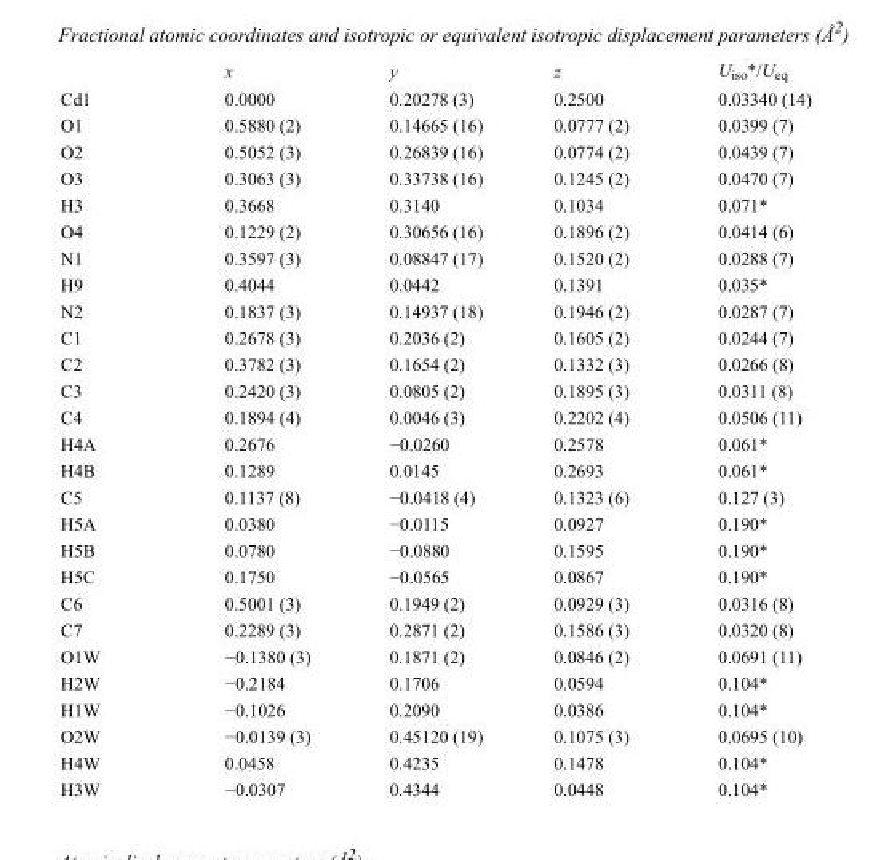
<table><thead><tr><td></td><td>x</td><td>y</td><td>z</td><td>U<sub>iso</sub>*/U<sub>eq</sub></td></tr></thead><tbody><tr><td>Cd1</td><td>0.0000</td><td>0.20278 (3)</td><td>0.2500</td><td>0.03340 (14)</td></tr><tr><td>O1</td><td>0.5880 (2)</td><td>0.14665 (16)</td><td>0.0777 (2)</td><td>0.0399 (7)</td></tr><tr><td>O2</td><td>0.5052 (3)</td><td>0.26839 (16)</td><td>0.0774 (2)</td><td>0.0439 (7)</td></tr><tr><td>O3</td><td>0.3063 (3)</td><td>0.33738 (16)</td><td>0.1245 (2)</td><td>0.0470 (7)</td></tr><tr><td>H3</td><td>0.3668</td><td>0.3140</td><td>0.1034</td><td>0.071*</td></tr><tr><td>O4</td><td>0.1229 (2)</td><td>0.30656 (16)</td><td>0.1896 (2)</td><td>0.0414 (6)</td></tr><tr><td>N1</td><td>0.3597 (3)</td><td>0.08847 (17)</td><td>0.1520 (2)</td><td>0.0288 (7)</td></tr><tr><td>H9</td><td>0.4044</td><td>0.0442</td><td>0.1391</td><td>0.035*</td></tr><tr><td>N2</td><td>0.1837 (3)</td><td>0.14937 (18)</td><td>0.1946 (2)</td><td>0.0287 (7)</td></tr><tr><td>C1</td><td>0.2678 (3)</td><td>0.2036 (2)</td><td>0.1605 (2)</td><td>0.0244 (7)</td></tr><tr><td>C2</td><td>0.3782 (3)</td><td>0.1654 (2)</td><td>0.1332 (3)</td><td>0.0266 (8)</td></tr><tr><td>C3</td><td>0.2420 (3)</td><td>0.0805 (2)</td><td>0.1895 (3)</td><td>0.0311 (8)</td></tr><tr><td>C4</td><td>0.1894 (4)</td><td>0.0046 (3)</td><td>0.2202 (4)</td><td>0.0506 (11)</td></tr><tr><td>H4A</td><td>0.2676</td><td>−0.0260</td><td>0.2578</td><td>0.061*</td></tr><tr><td>H4B</td><td>0.1289</td><td>0.0145</td><td>0.2693</td><td>0.061*</td></tr><tr><td>C5</td><td>0.1137 (8)</td><td>−0.0418 (4)</td><td>0.1323 (6)</td><td>0.127 (3)</td></tr><tr><td>H5A</td><td>0.0380</td><td>−0.0115</td><td>0.0927</td><td>0.190*</td></tr><tr><td>H5B</td><td>0.0780</td><td>−0.0880</td><td>0.1595</td><td>0.190*</td></tr><tr><td>H5C</td><td>0.1750</td><td>−0.0565</td><td>0.0867</td><td>0.190*</td></tr><tr><td>C6</td><td>0.5001 (3)</td><td>0.1949 (2)</td><td>0.0929 (3)</td><td>0.0316 (8)</td></tr><tr><td>C7</td><td>0.2289 (3)</td><td>0.2871 (2)</td><td>0.1586 (3)</td><td>0.0320 (8)</td></tr><tr><td>O1W</td><td>−0.1380 (3)</td><td>0.1871 (2)</td><td>0.0846 (2)</td><td>0.0691 (11)</td></tr><tr><td>H2W</td><td>−0.2184</td><td>0.1706</td><td>0.0594</td><td>0.104*</td></tr><tr><td>H1W</td><td>−0.1026</td><td>0.2090</td><td>0.0386</td><td>0.104*</td></tr><tr><td>O2W</td><td>−0.0139 (3)</td><td>0.45120 (19)</td><td>0.1075 (3)</td><td>0.0695 (10)</td></tr><tr><td>H4W</td><td>0.0458</td><td>0.4235</td><td>0.1478</td><td>0.104*</td></tr><tr><td>H3W</td><td>−0.0307</td><td>0.4344</td><td>0.0448</td><td>0.104*</td></tr></tbody></table>